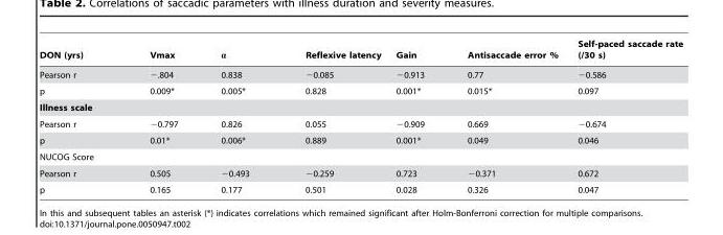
<table><thead><tr><td>DON (yrs)</td><td>Vmax</td><td>α</td><td>Reflexive latency</td><td>Gain</td><td>Antisaccade error %</td><td>Self-paced saccade rate (/30 s)</td></tr></thead><tbody><tr><td>Pearson r</td><td>−.804</td><td>0.838</td><td>−0.085</td><td>−0.913</td><td>0.77</td><td>−0.586</td></tr><tr><td>p</td><td>0.009*</td><td>0.005*</td><td>0.828</td><td>0.001*</td><td>0.015*</td><td>0.097</td></tr><tr><td colspan="7">Illness scale</td></tr><tr><td>Pearson r</td><td>−0.797</td><td>0.826</td><td>0.055</td><td>−0.909</td><td>0.669</td><td>−0.674</td></tr><tr><td>p</td><td>0.01*</td><td>0.006*</td><td>0.889</td><td>0.001*</td><td>0.049</td><td>0.046</td></tr><tr><td colspan="7">NUCOG Score</td></tr><tr><td>Pearson r</td><td>0.505</td><td>−0.493</td><td>−0.259</td><td>0.723</td><td>−0.371</td><td>0.672</td></tr><tr><td>p</td><td>0.165</td><td>0.177</td><td>0.501</td><td>0.028</td><td>0.326</td><td>0.047</td></tr></tbody></table>